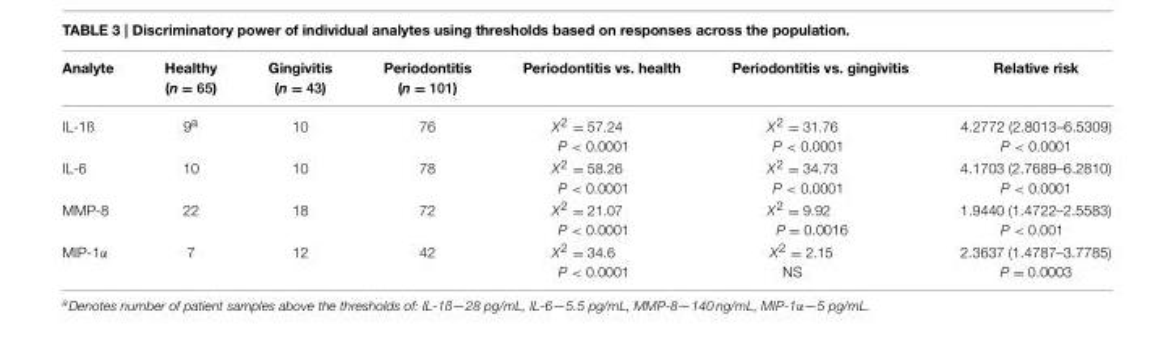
<table><thead><tr><td>Analyte</td><td>Healthy (n = 65)</td><td>Gingivitis (n = 43)</td><td>Periodontitis (n = 101)</td><td>Periodontitis vs. health</td><td>Periodontitis vs. gingivitis</td><td>Relative risk</td></tr></thead><tbody><tr><td>IL-1ß</td><td>9<sup>a</sup></td><td>10</td><td>76</td><td>X<sup>2</sup> = 57.24 P &lt; 0.0001</td><td>X<sup>2</sup> = 31.76 P &lt; 0.0001</td><td>4.2772 (2.8013–6.5309) P &lt; 0.0001</td></tr><tr><td>IL-6</td><td>10</td><td>10</td><td>78</td><td>X<sup>2</sup> = 58.26 P &lt; 0.0001</td><td>X<sup>2</sup> = 34.73 P &lt; 0.0001</td><td>4.1703 (2.7689–6.2810) P &lt; 0.0001</td></tr><tr><td>MMP-8</td><td>22</td><td>18</td><td>72</td><td>X<sup>2</sup> = 21.07 P &lt; 0.0001</td><td>X<sup>2</sup> = 9.92 P = 0.0016</td><td>1.9440 (1.4722–2.5583) P &lt; 0.001</td></tr><tr><td>MIP-1α</td><td>7</td><td>12</td><td>42</td><td>X<sup>2</sup> = 34.6 P &lt; 0.0001</td><td>X<sup>2</sup> = 2.15 NS</td><td>2.3637 (1.4787–3.7785) P = 0.0003</td></tr></tbody></table>